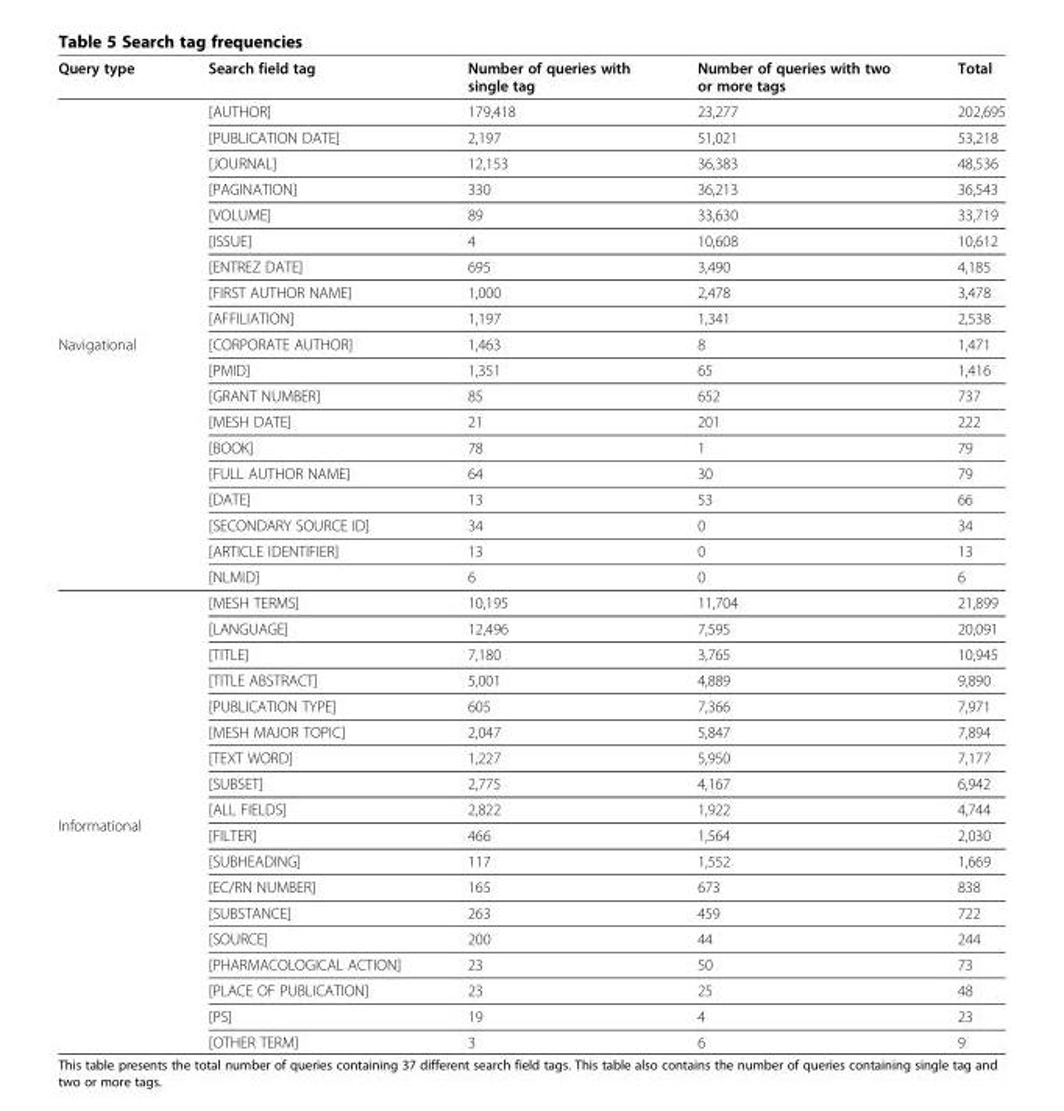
<table><thead><tr><td>Query type</td><td>Search field tag</td><td>Number of queries with single tag</td><td>Number of queries with two or more tags</td><td>Total</td></tr></thead><tbody><tr><td rowspan="19">Navigational</td><td>[AUTHOR]</td><td>179,418</td><td>23,277</td><td>202,695</td></tr><tr><td>[PUBLICATION DATE]</td><td>2,197</td><td>51,021</td><td>53,218</td></tr><tr><td>[JOURNAL]</td><td>12,153</td><td>36,383</td><td>48,536</td></tr><tr><td>[PAGINATION]</td><td>330</td><td>36,213</td><td>36,543</td></tr><tr><td>[VOLUME]</td><td>89</td><td>33,630</td><td>33,719</td></tr><tr><td>[ISSUE]</td><td>4</td><td>10,608</td><td>10,612</td></tr><tr><td>[ENTREZ DATE]</td><td>695</td><td>3,490</td><td>4,185</td></tr><tr><td>[FIRST AUTHOR NAME]</td><td>1,000</td><td>2,478</td><td>3,478</td></tr><tr><td>[AFFILIATION]</td><td>1,197</td><td>1,341</td><td>2,538</td></tr><tr><td>[CORPORATE AUTHOR]</td><td>1,463</td><td>8</td><td>1,471</td></tr><tr><td>[PMID]</td><td>1,351</td><td>65</td><td>1,416</td></tr><tr><td>[GRANT NUMBER]</td><td>85</td><td>652</td><td>737</td></tr><tr><td>[MESH DATE]</td><td>21</td><td>201</td><td>222</td></tr><tr><td>[BOOK]</td><td>78</td><td>1</td><td>79</td></tr><tr><td>[FULL AUTHOR NAME]</td><td>64</td><td>30</td><td>79</td></tr><tr><td>[DATE]</td><td>13</td><td>53</td><td>66</td></tr><tr><td>[SECONDARY SOURCE ID]</td><td>34</td><td>0</td><td>34</td></tr><tr><td>[ARTICLE IDENTIFIER]</td><td>13</td><td>0</td><td>13</td></tr><tr><td>[NLMID]</td><td>6</td><td>0</td><td>6</td></tr><tr><td rowspan="18">Informational</td><td>[MESH TERMS]</td><td>10,195</td><td>11,704</td><td>21,899</td></tr><tr><td>[LANGUAGE]</td><td>12,496</td><td>7,595</td><td>20,091</td></tr><tr><td>[TITLE]</td><td>7,180</td><td>3,765</td><td>10,945</td></tr><tr><td>[TITLE ABSTRACT]</td><td>5,001</td><td>4,889</td><td>9,890</td></tr><tr><td>[PUBLICATION TYPE]</td><td>605</td><td>7,366</td><td>7,971</td></tr><tr><td>[MESH MAJOR TOPIC]</td><td>2,047</td><td>5,847</td><td>7,894</td></tr><tr><td>[TEXT WORD]</td><td>1,227</td><td>5,950</td><td>7,177</td></tr><tr><td>[SUBSET]</td><td>2,775</td><td>4,167</td><td>6,942</td></tr><tr><td>[ALL FIELDS]</td><td>2,822</td><td>1,922</td><td>4,744</td></tr><tr><td>[FILTER]</td><td>466</td><td>1,564</td><td>2,030</td></tr><tr><td>[SUBHEADING]</td><td>117</td><td>1,552</td><td>1,669</td></tr><tr><td>[EC/RN NUMBER]</td><td>165</td><td>673</td><td>838</td></tr><tr><td>[SUBSTANCE]</td><td>263</td><td>459</td><td>722</td></tr><tr><td>[SOURCE]</td><td>200</td><td>44</td><td>244</td></tr><tr><td>[PHARMACOLOGICAL ACTION]</td><td>23</td><td>50</td><td>73</td></tr><tr><td>[PLACE OF PUBLICATION]</td><td>23</td><td>25</td><td>48</td></tr><tr><td>[PS]</td><td>19</td><td>4</td><td>23</td></tr><tr><td>[OTHER TERM]</td><td>3</td><td>6</td><td>9</td></tr></tbody></table>